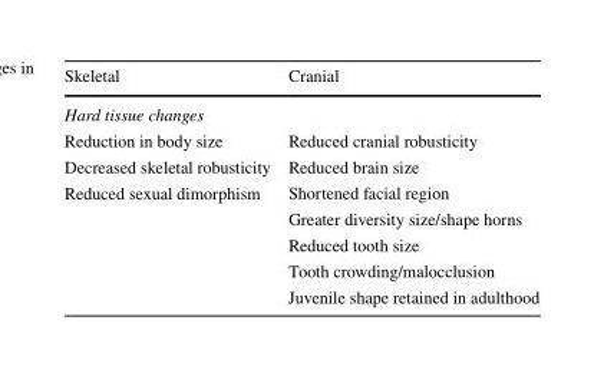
<table><thead><tr><td>Skeletal</td><td>Cranial</td></tr></thead><tbody><tr><td colspan="2">Hard tissue changes</td></tr><tr><td>Reduction in body size</td><td>Reduced cranial robusticity</td></tr><tr><td>Decreased skeletal robusticity</td><td>Reduced brain size</td></tr><tr><td rowspan="5">Reduced sexual dimorphism</td><td>Shortened facial region</td></tr><tr><td>Greater diversity size/shape horns</td></tr><tr><td>Reduced tooth size</td></tr><tr><td>Tooth crowding/malocclusion</td></tr><tr><td>Juvenile shape retained in adulthood</td></tr></tbody></table>